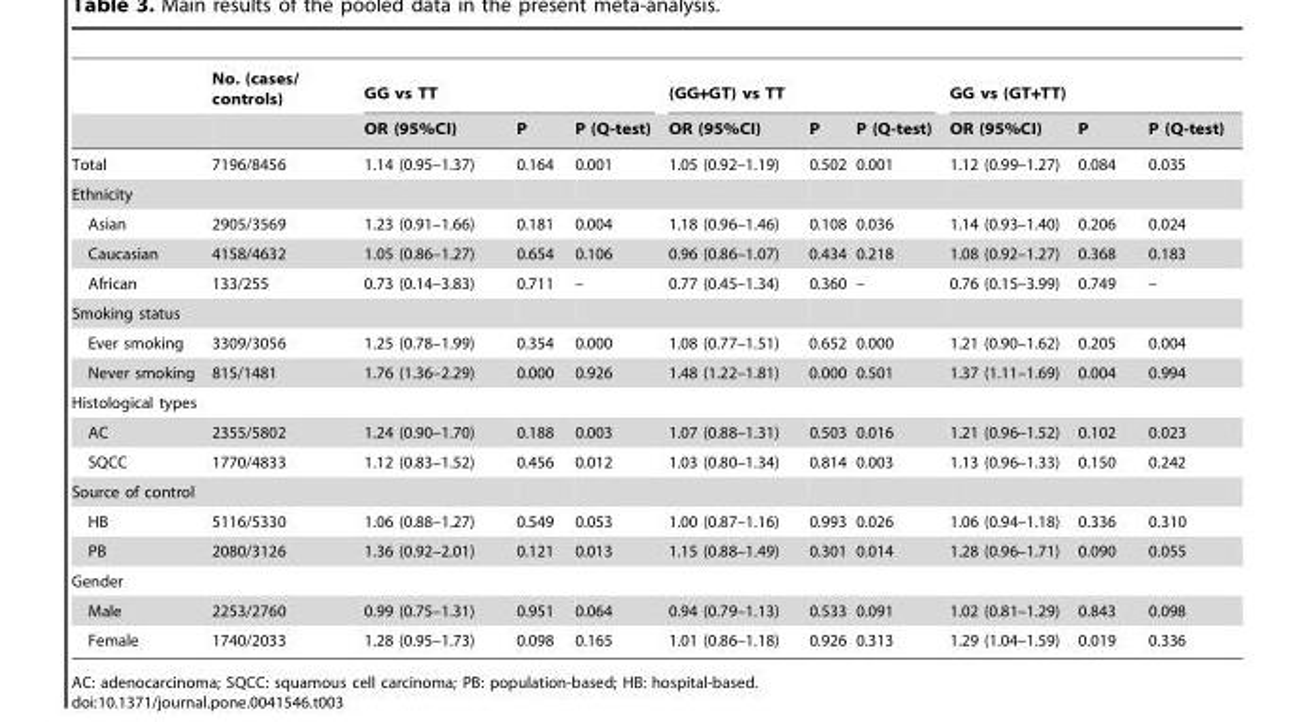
<table><thead><tr><td rowspan="2"></td><td rowspan="2">No. (cases/ controls)</td><td colspan="3">GG vs TT</td><td colspan="3">(GG+GT) vs TT</td><td colspan="3">GG vs (GT+TT)</td></tr><tr><td>OR (95%CI)</td><td>P</td><td>P (Q-test)</td><td>OR (95%CI)</td><td>P</td><td>P (Q-test)</td><td>OR (95%CI)</td><td>P</td><td>P (Q-test)</td></tr></thead><tbody><tr><td>Total</td><td>7196/8456</td><td>1.14 (0.95–1.37)</td><td>0.164</td><td>0.001</td><td>1.05 (0.92–1.19)</td><td>0.502</td><td>0.001</td><td>1.12 (0.99–1.27)</td><td>0.084</td><td>0.035</td></tr><tr><td colspan="11">Ethnicity</td></tr><tr><td>Asian</td><td>2905/3569</td><td>1.23 (0.91–1.66)</td><td>0.181</td><td>0.004</td><td>1.18 (0.96–1.46)</td><td>0.108</td><td>0.036</td><td>1.14 (0.93–1.40)</td><td>0.206</td><td>0.024</td></tr><tr><td>Caucasian</td><td>4158/4632</td><td>1.05 (0.86–1.27)</td><td>0.654</td><td>0.106</td><td>0.96 (0.86–1.07)</td><td>0.434</td><td>0.218</td><td>1.08 (0.92–1.27)</td><td>0.368</td><td>0.183</td></tr><tr><td>African</td><td>133/255</td><td>0.73 (0.14–3.83)</td><td>0.711</td><td>–</td><td>0.77 (0.45–1.34)</td><td>0.360</td><td>–</td><td>0.76 (0.15–3.99)</td><td>0.749</td><td>–</td></tr><tr><td colspan="11">Smoking status</td></tr><tr><td>Ever smoking</td><td>3309/3056</td><td>1.25 (0.78–1.99)</td><td>0.354</td><td>0.000</td><td>1.08 (0.77–1.51)</td><td>0.652</td><td>0.000</td><td>1.21 (0.90–1.62)</td><td>0.205</td><td>0.004</td></tr><tr><td>Never smoking</td><td>815/1481</td><td>1.76 (1.36–2.29)</td><td>0.000</td><td>0.926</td><td>1.48 (1.22–1.81)</td><td>0.000</td><td>0.501</td><td>1.37 (1.11–1.69)</td><td>0.004</td><td>0.994</td></tr><tr><td colspan="11">Histological types</td></tr><tr><td>AC</td><td>2355/5802</td><td>1.24 (0.90–1.70)</td><td>0.188</td><td>0.003</td><td>1.07 (0.88–1.31)</td><td>0.503</td><td>0.016</td><td>1.21 (0.96–1.52)</td><td>0.102</td><td>0.023</td></tr><tr><td>SQCC</td><td>1770/4833</td><td>1.12 (0.83–1.52)</td><td>0.456</td><td>0.012</td><td>1.03 (0.80–1.34)</td><td>0.814</td><td>0.003</td><td>1.13 (0.96–1.33)</td><td>0.150</td><td>0.242</td></tr><tr><td colspan="11">Source of control</td></tr><tr><td>HB</td><td>5116/5330</td><td>1.06 (0.88–1.27)</td><td>0.549</td><td>0.053</td><td>1.00 (0.87–1.16)</td><td>0.993</td><td>0.026</td><td>1.06 (0.94–1.18)</td><td>0.336</td><td>0.310</td></tr><tr><td>PB</td><td>2080/3126</td><td>1.36 (0.92–2.01)</td><td>0.121</td><td>0.013</td><td>1.15 (0.88–1.49)</td><td>0.301</td><td>0.014</td><td>1.28 (0.96–1.71)</td><td>0.090</td><td>0.055</td></tr><tr><td colspan="11">Gender</td></tr><tr><td>Male</td><td>2253/2760</td><td>0.99 (0.75–1.31)</td><td>0.951</td><td>0.064</td><td>0.94 (0.79–1.13)</td><td>0.533</td><td>0.091</td><td>1.02 (0.81–1.29)</td><td>0.843</td><td>0.098</td></tr><tr><td>Female</td><td>1740/2033</td><td>1.28 (0.95–1.73)</td><td>0.098</td><td>0.165</td><td>1.01 (0.86–1.18)</td><td>0.926</td><td>0.313</td><td>1.29 (1.04–1.59)</td><td>0.019</td><td>0.336</td></tr></tbody></table>